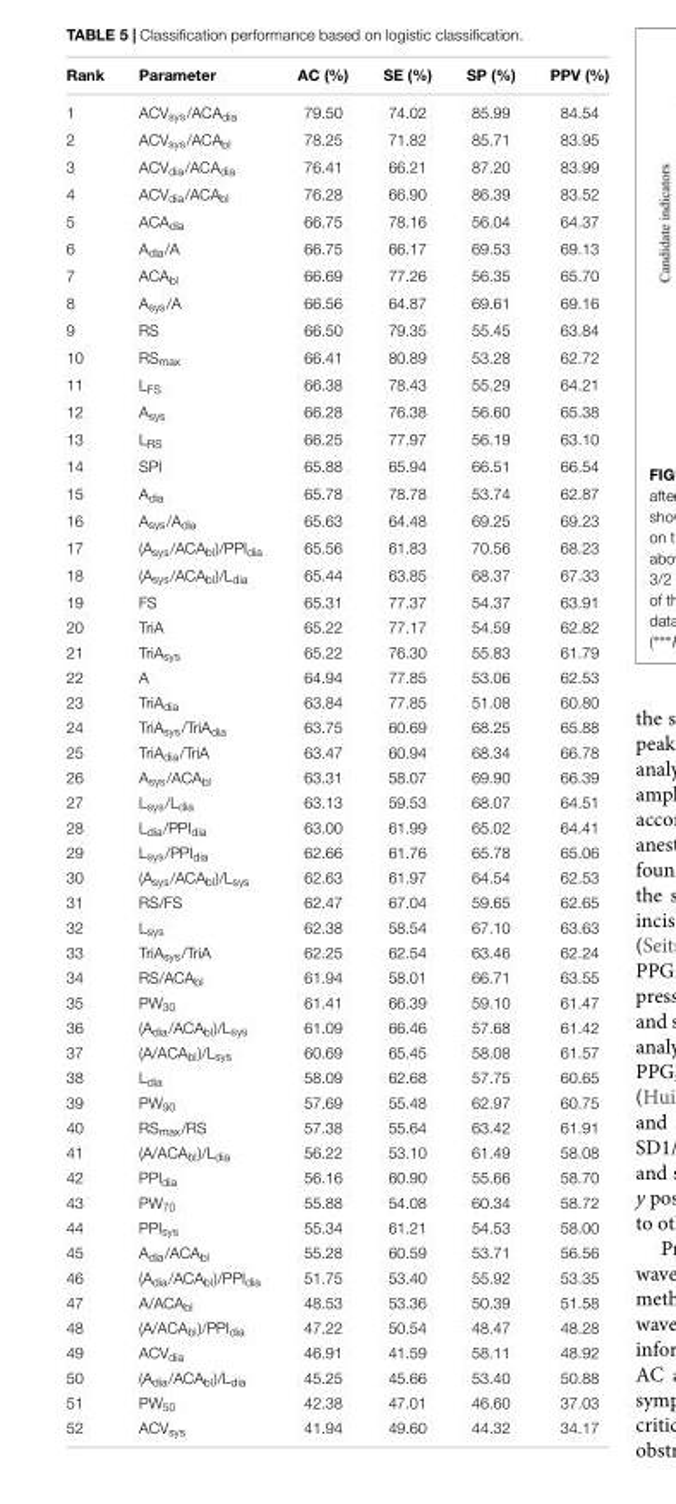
<table><thead><tr><td>Rank</td><td>Parameter</td><td>AC (%)</td><td>SE (%)</td><td>SP (%)</td><td>PPV (%)</td></tr></thead><tbody><tr><td>1</td><td>ACV<sub>sys</sub>/ACA<sub>dia</sub></td><td>79.50</td><td>74.02</td><td>85.99</td><td>84.54</td></tr><tr><td>2</td><td>ACV<sub>sys</sub>/ACA<sub>bl</sub></td><td>78.25</td><td>71.82</td><td>85.71</td><td>83.95</td></tr><tr><td>3</td><td>ACV<sub>dia</sub>/ACA<sub>dia</sub></td><td>76.41</td><td>66.21</td><td>87.20</td><td>83.99</td></tr><tr><td>4</td><td>ACV<sub>dia</sub>/ACA<sub>bl</sub></td><td>76.28</td><td>66.90</td><td>86.39</td><td>83.52</td></tr><tr><td>5</td><td>ACA<sub>dia</sub></td><td>66.75</td><td>78.16</td><td>56.04</td><td>64.37</td></tr><tr><td>6</td><td>A<sub>dia</sub>/A</td><td>66.75</td><td>66.17</td><td>69.53</td><td>69.13</td></tr><tr><td>7</td><td>ACA<sub>bl</sub></td><td>66.69</td><td>77.26</td><td>56.35</td><td>65.70</td></tr><tr><td>8</td><td>A<sub>sys</sub>/A</td><td>66.56</td><td>64.87</td><td>69.61</td><td>69.16</td></tr><tr><td>9</td><td>RS</td><td>66.50</td><td>79.35</td><td>55.45</td><td>63.84</td></tr><tr><td>10</td><td>RS<sub>max</sub></td><td>66.41</td><td>80.89</td><td>53.28</td><td>62.72</td></tr><tr><td>11</td><td>L<sub>FS</sub></td><td>66.38</td><td>78.43</td><td>55.29</td><td>64.21</td></tr><tr><td>12</td><td>A<sub>sys</sub></td><td>66.28</td><td>76.38</td><td>56.60</td><td>65.38</td></tr><tr><td>13</td><td>L<sub>RS</sub></td><td>66.25</td><td>77.97</td><td>56.19</td><td>63.10</td></tr><tr><td>14</td><td>SPI</td><td>65.88</td><td>65.94</td><td>66.51</td><td>66.54</td></tr><tr><td>15</td><td>A<sub>dia</sub></td><td>65.78</td><td>78.78</td><td>53.74</td><td>62.87</td></tr><tr><td>16</td><td>A<sub>sys</sub>/A<sub>dia</sub></td><td>65.63</td><td>64.48</td><td>69.25</td><td>69.23</td></tr><tr><td>17</td><td>(A<sub>sys</sub>/ACA<sub>bl</sub>)/PPI<sub>dia</sub></td><td>65.56</td><td>61.83</td><td>70.56</td><td>68.23</td></tr><tr><td>18</td><td>(A<sub>sys</sub>/ACA<sub>bl</sub>)/L<sub>dia</sub></td><td>65.44</td><td>63.85</td><td>68.37</td><td>67.33</td></tr><tr><td>19</td><td>FS</td><td>65.31</td><td>77.37</td><td>54.37</td><td>63.91</td></tr><tr><td>20</td><td>TriA</td><td>65.22</td><td>77.17</td><td>54.59</td><td>62.82</td></tr><tr><td>21</td><td>TriA<sub>sys</sub></td><td>65.22</td><td>76.30</td><td>55.83</td><td>61.79</td></tr><tr><td>22</td><td>A</td><td>64.94</td><td>77.85</td><td>53.06</td><td>62.53</td></tr><tr><td>23</td><td>TriA<sub>dia</sub></td><td>63.84</td><td>77.85</td><td>51.08</td><td>60.80</td></tr><tr><td>24</td><td>TriA<sub>sys</sub>/TriA<sub>dia</sub></td><td>63.75</td><td>60.69</td><td>68.25</td><td>65.88</td></tr><tr><td>25</td><td>TriA<sub>dia</sub>/TriA</td><td>63.47</td><td>60.94</td><td>68.34</td><td>66.78</td></tr><tr><td>26</td><td>A<sub>sys</sub>/ACA<sub>bl</sub></td><td>63.31</td><td>58.07</td><td>69.90</td><td>66.39</td></tr><tr><td>27</td><td>L<sub>sys</sub>/L<sub>dia</sub></td><td>63.13</td><td>59.53</td><td>68.07</td><td>64.51</td></tr><tr><td>28</td><td>L<sub>dia</sub>/PPI<sub>dia</sub></td><td>63.00</td><td>61.99</td><td>65.02</td><td>64.41</td></tr><tr><td>29</td><td>L<sub>sys</sub>/PPI<sub>dia</sub></td><td>62.66</td><td>61.76</td><td>65.78</td><td>65.06</td></tr><tr><td>30</td><td>(A<sub>sys</sub>/ACA<sub>bl</sub>)/L<sub>sys</sub></td><td>62.63</td><td>61.97</td><td>64.54</td><td>62.53</td></tr><tr><td>31</td><td>RS/FS</td><td>62.47</td><td>67.04</td><td>59.65</td><td>62.65</td></tr><tr><td>32</td><td>L<sub>sys</sub></td><td>62.38</td><td>58.54</td><td>67.10</td><td>63.63</td></tr><tr><td>33</td><td>TriA<sub>sys</sub>/TriA</td><td>62.25</td><td>62.54</td><td>63.46</td><td>62.24</td></tr><tr><td>34</td><td>RS/ACA<sub>bl</sub></td><td>61.94</td><td>58.01</td><td>66.71</td><td>63.55</td></tr><tr><td>35</td><td>PW<sub>30</sub></td><td>61.41</td><td>66.39</td><td>59.10</td><td>61.47</td></tr><tr><td>36</td><td>(A<sub>dia</sub>/ACA<sub>bl</sub>)/L<sub>sys</sub></td><td>61.09</td><td>66.46</td><td>57.68</td><td>61.42</td></tr><tr><td>37</td><td>(A/ACA<sub>bl</sub>)/L<sub>sys</sub></td><td>60.69</td><td>65.45</td><td>58.08</td><td>61.57</td></tr><tr><td>38</td><td>L<sub>dia</sub></td><td>58.09</td><td>62.68</td><td>57.75</td><td>60.65</td></tr><tr><td>39</td><td>PW<sub>90</sub></td><td>57.69</td><td>55.48</td><td>62.97</td><td>60.75</td></tr><tr><td>40</td><td>RS<sub>max</sub>/RS</td><td>57.38</td><td>55.64</td><td>63.42</td><td>61.91</td></tr><tr><td>41</td><td>(A/ACA<sub>bl</sub>)/L<sub>dia</sub></td><td>56.22</td><td>53.10</td><td>61.49</td><td>58.08</td></tr><tr><td>42</td><td>PPI<sub>dia</sub></td><td>56.16</td><td>60.90</td><td>55.66</td><td>58.70</td></tr><tr><td>43</td><td>PW<sub>70</sub></td><td>55.88</td><td>54.08</td><td>60.34</td><td>58.72</td></tr><tr><td>44</td><td>PPI<sub>sys</sub></td><td>55.34</td><td>61.21</td><td>54.53</td><td>58.00</td></tr><tr><td>45</td><td>A<sub>dia</sub>/ACA<sub>bl</sub></td><td>55.28</td><td>60.59</td><td>53.71</td><td>56.56</td></tr><tr><td>46</td><td>(A<sub>dia</sub>/ACA<sub>bl</sub>)/PPI<sub>dia</sub></td><td>51.75</td><td>53.40</td><td>55.92</td><td>53.35</td></tr><tr><td>47</td><td>A/ACA<sub>bl</sub></td><td>48.53</td><td>53.36</td><td>50.39</td><td>51.58</td></tr><tr><td>48</td><td>(A/ACA<sub>bl</sub>)/PPI<sub>dia</sub></td><td>47.22</td><td>50.54</td><td>48.47</td><td>48.28</td></tr><tr><td>49</td><td>ACV<sub>dia</sub></td><td>46.91</td><td>41.59</td><td>58.11</td><td>48.92</td></tr><tr><td>50</td><td>(A<sub>dia</sub>/ACA<sub>bl</sub>)/L<sub>dia</sub></td><td>45.25</td><td>45.66</td><td>53.40</td><td>50.88</td></tr><tr><td>51</td><td>PW<sub>50</sub></td><td>42.38</td><td>47.01</td><td>46.60</td><td>37.03</td></tr><tr><td>52</td><td>ACV<sub>sys</sub></td><td>41.94</td><td>49.60</td><td>44.32</td><td>34.17</td></tr></tbody></table>